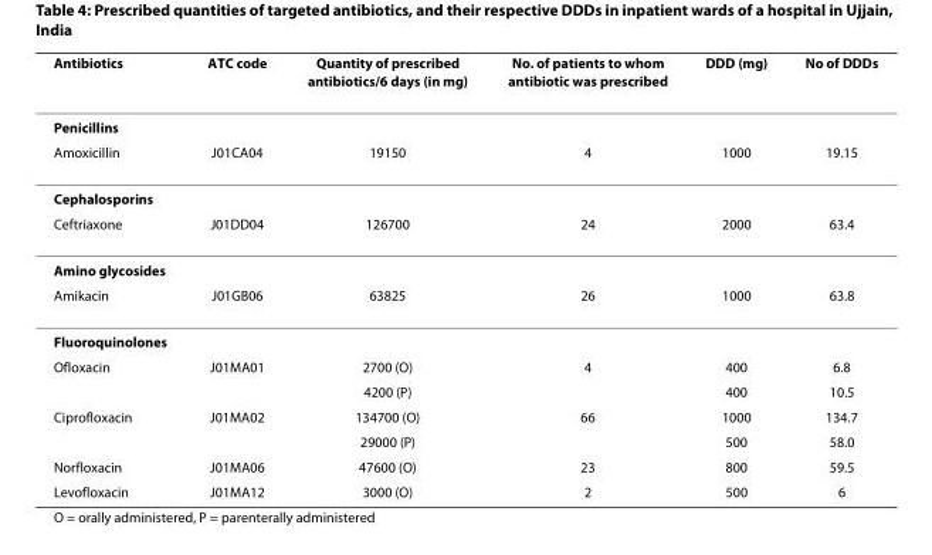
<table><thead><tr><td>Antibiotics</td><td>ATC code</td><td>Quantity of prescribed antibiotics/6 days (in mg)</td><td>No. of patients to whom antibiotic was prescribed</td><td>DDD (mg)</td><td>No of DDDs</td></tr></thead><tbody><tr><td colspan="6">Penicillins</td></tr><tr><td>Amoxicillin</td><td>J01CA04</td><td>19150</td><td>4</td><td>1000</td><td>19.15</td></tr><tr><td colspan="6">Cephalosporins</td></tr><tr><td>Ceftriaxone</td><td>J01DD04</td><td>126700</td><td>24</td><td>2000</td><td>63.4</td></tr><tr><td colspan="6">Amino glycosides</td></tr><tr><td>Amikacin</td><td>J01GB06</td><td>63825</td><td>26</td><td>1000</td><td>63.8</td></tr><tr><td colspan="6">Fluoroquinolones</td></tr><tr><td rowspan="2">Ofloxacin</td><td>J01MA01</td><td>2700 (O)</td><td>4</td><td>400</td><td>6.8</td></tr><tr><td></td><td>4200 (P)</td><td></td><td>400</td><td>10.5</td></tr><tr><td rowspan="2">Ciprofloxacin</td><td>J01MA02</td><td>134700 (O)</td><td>66</td><td>1000</td><td>134.7</td></tr><tr><td></td><td>29000 (P)</td><td></td><td>500</td><td>58.0</td></tr><tr><td>Norfloxacin</td><td>J01MA06</td><td>47600 (O)</td><td>23</td><td>800</td><td>59.5</td></tr><tr><td>Levofloxacin</td><td>J01MA12</td><td>3000 (O)</td><td>2</td><td>500</td><td>6</td></tr></tbody></table>